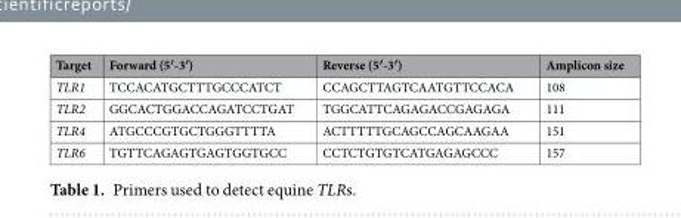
<table><thead><tr><td>Target</td><td>Forward (5′-3′)</td><td>Reverse (5′-3′)</td><td>Amplicon size</td></tr></thead><tbody><tr><td>TLR1</td><td>TCCACATGCTTTGCCCATCT</td><td>CCAGCTTAGTCAATGTTCCACA</td><td>108</td></tr><tr><td>TLR2</td><td>GGCACTGGACCAGATCCTGAT</td><td>TGGCATTCAGAGACCGAGAGA</td><td>111</td></tr><tr><td>TLR4</td><td>ATGCCCGTGCTGGGTTTTA</td><td>ACTTTTTGCAGCCAGCAAGAA</td><td>151</td></tr><tr><td>TLR6</td><td>TGTTCAGAGTGAGTGGTGCC</td><td>CCTCTGTGTCATGAGAGCCC</td><td>157</td></tr></tbody></table>